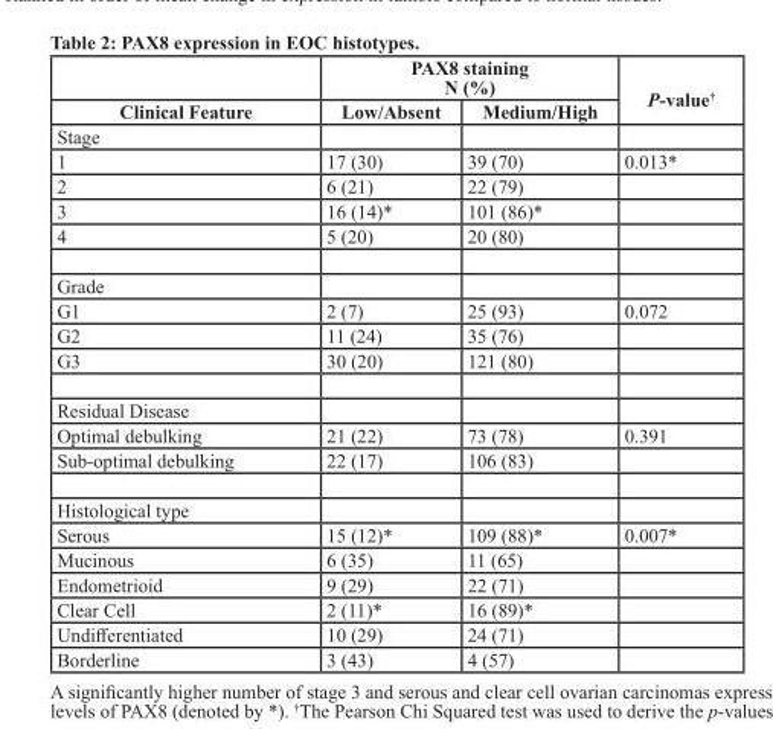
<table><thead><tr><td rowspan="2">Clinical Feature</td><td colspan="2">PAX8 staining N (%)</td><td rowspan="2">P-value<sup>†</sup></td></tr><tr><td>Low/Absent</td><td>Medium/High</td></tr></thead><tbody><tr><td colspan="4">Stage</td></tr><tr><td>1</td><td>17 (30)</td><td>39 (70)</td><td>0.013*</td></tr><tr><td>2</td><td>6 (21)</td><td>22 (79)</td><td></td></tr><tr><td>3</td><td>16 (14)*</td><td>101 (86)*</td><td></td></tr><tr><td>4</td><td>5 (20)</td><td>20 (80)</td><td></td></tr><tr><td colspan="4">Grade</td></tr><tr><td>G1</td><td>2 (7)</td><td>25 (93)</td><td>0.072</td></tr><tr><td>G2</td><td>11 (24)</td><td>35 (76)</td><td></td></tr><tr><td>G3</td><td>30 (20)</td><td>121 (80)</td><td></td></tr><tr><td colspan="4">Residual Disease</td></tr><tr><td>Optimal debulking</td><td>21 (22)</td><td>73 (78)</td><td>0.391</td></tr><tr><td>Sub-optimal debulking</td><td>22 (17)</td><td>106 (83)</td><td></td></tr><tr><td colspan="4">Histological type</td></tr><tr><td>Serous</td><td>15 (12)*</td><td>109 (88)*</td><td>0.007*</td></tr><tr><td>Mucinous</td><td>6 (35)</td><td>11 (65)</td><td></td></tr><tr><td>Endometrioid</td><td>9 (29)</td><td>22 (71)</td><td></td></tr><tr><td>Clear Cell</td><td>2 (11)*</td><td>16 (89)*</td><td></td></tr><tr><td>Undifferentiated</td><td>10 (29)</td><td>24 (71)</td><td></td></tr><tr><td>Borderline</td><td>3 (43)</td><td>4 (57)</td><td></td></tr></tbody></table>